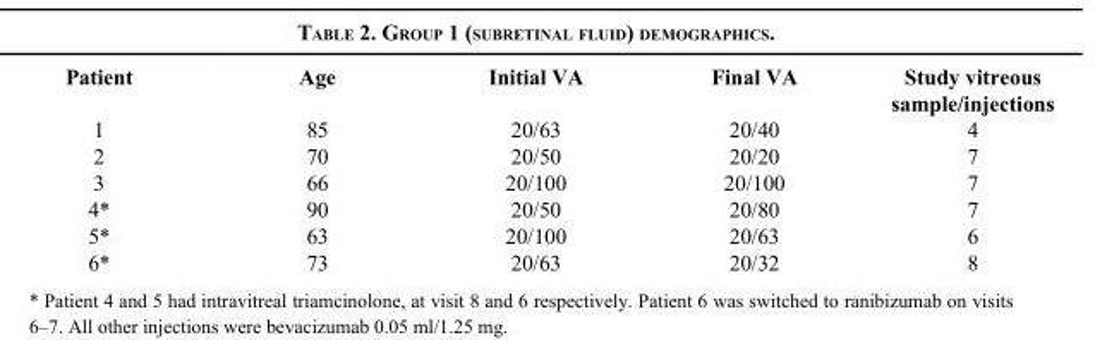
<table><thead><tr><td>Patient</td><td>Age</td><td>Initial VA</td><td>Final VA</td><td>Study vitreous sample/injections</td></tr></thead><tbody><tr><td>1</td><td>85</td><td>20/63</td><td>20/40</td><td>4</td></tr><tr><td>2</td><td>70</td><td>20/50</td><td>20/20</td><td>7</td></tr><tr><td>3</td><td>66</td><td>20/100</td><td>20/100</td><td>7</td></tr><tr><td>4*</td><td>90</td><td>20/50</td><td>20/80</td><td>7</td></tr><tr><td>5*</td><td>63</td><td>20/100</td><td>20/63</td><td>6</td></tr><tr><td>6*</td><td>73</td><td>20/63</td><td>20/32</td><td>8</td></tr></tbody></table>